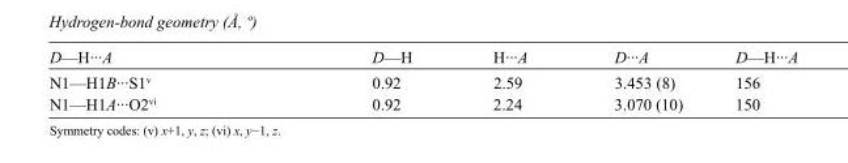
<table><tbody><tr><td>D—H···A</td><td>D—H</td><td>H···A</td><td>D···A</td><td>D—H···A</td></tr><tr><td>N1—H1B···S1<sup>v</sup></td><td>0.92</td><td>2.59</td><td>3.453 (8)</td><td>156</td></tr><tr><td>N1—H1A···O2<sup>vi</sup></td><td>0.92</td><td>2.24</td><td>3.070 (10)</td><td>150</td></tr></tbody></table>